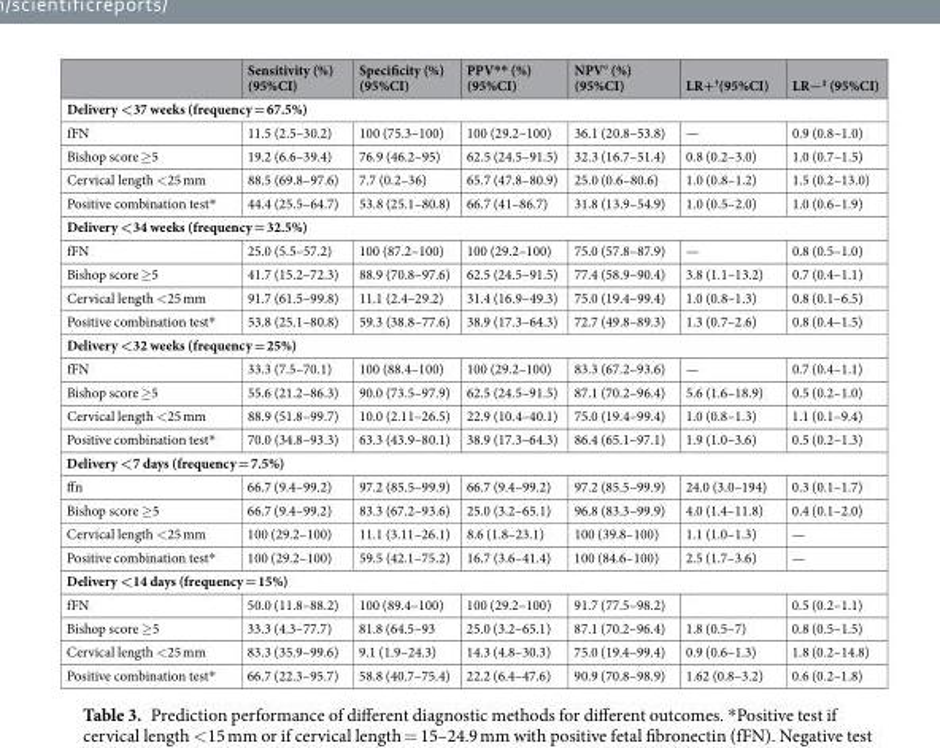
<table><thead><tr><td></td><td>Sensitivity (%) (95%CI)</td><td>Specificity (%) (95%CI)</td><td>PPV** (%) (95%CI)</td><td>NPV° (%) (95%CI)</td><td>LR+<sup>†</sup>(95%CI)</td><td>LR−<sup>‡</sup> (95%CI)</td></tr></thead><tbody><tr><td colspan="7">Delivery &lt;37 weeks (frequency = 67.5%)</td></tr><tr><td>fFN</td><td>11.5 (2.5–30.2)</td><td>100 (75.3–100)</td><td>100 (29.2–100)</td><td>36.1 (20.8–53.8)</td><td>—</td><td>0.9 (0.8–1.0)</td></tr><tr><td>Bishop score ≥5</td><td>19.2 (6.6–39.4)</td><td>76.9 (46.2–95)</td><td>62.5 (24.5–91.5)</td><td>32.3 (16.7–51.4)</td><td>0.8 (0.2–3.0)</td><td>1.0 (0.7–1.5)</td></tr><tr><td>Cervical length &lt;25 mm</td><td>88.5 (69.8–97.6)</td><td>7.7 (0.2–36)</td><td>65.7 (47.8–80.9)</td><td>25.0 (0.6–80.6)</td><td>1.0 (0.8–1.2)</td><td>1.5 (0.2–13.0)</td></tr><tr><td>Positive combination test*</td><td>44.4 (25.5–64.7)</td><td>53.8 (25.1–80.8)</td><td>66.7 (41–86.7)</td><td>31.8 (13.9–54.9)</td><td>1.0 (0.5–2.0)</td><td>1.0 (0.6–1.9)</td></tr><tr><td colspan="7">Delivery &lt;34 weeks (frequency = 32.5%)</td></tr><tr><td>fFN</td><td>25.0 (5.5–57.2)</td><td>100 (87.2–100)</td><td>100 (29.2–100)</td><td>75.0 (57.8–87.9)</td><td>—</td><td>0.8 (0.5–1.0)</td></tr><tr><td>Bishop score ≥5</td><td>41.7 (15.2–72.3)</td><td>88.9 (70.8–97.6)</td><td>62.5 (24.5–91.5)</td><td>77.4 (58.9–90.4)</td><td>3.8 (1.1–13.2)</td><td>0.7 (0.4–1.1)</td></tr><tr><td>Cervical length &lt;25 mm</td><td>91.7 (61.5–99.8)</td><td>11.1 (2.4–29.2)</td><td>31.4 (16.9–49.3)</td><td>75.0 (19.4–99.4)</td><td>1.0 (0.8–1.3)</td><td>0.8 (0.1–6.5)</td></tr><tr><td>Positive combination test*</td><td>53.8 (25.1–80.8)</td><td>59.3 (38.8–77.6)</td><td>38.9 (17.3–64.3)</td><td>72.7 (49.8–89.3)</td><td>1.3 (0.7–2.6)</td><td>0.8 (0.4–1.5)</td></tr><tr><td colspan="7">Delivery &lt;32 weeks (frequency = 25%)</td></tr><tr><td>fFN</td><td>33.3 (7.5–70.1)</td><td>100 (88.4–100)</td><td>100 (29.2–100)</td><td>83.3 (67.2–93.6)</td><td>—</td><td>0.7 (0.4–1.1)</td></tr><tr><td>Bishop score ≥5</td><td>55.6 (21.2–86.3)</td><td>90.0 (73.5–97.9)</td><td>62.5 (24.5–91.5)</td><td>87.1 (70.2–96.4)</td><td>5.6 (1.6–18.9)</td><td>0.5 (0.2–1.0)</td></tr><tr><td>Cervical length &lt;25 mm</td><td>88.9 (51.8–99.7)</td><td>10.0 (2.11–26.5)</td><td>22.9 (10.4–40.1)</td><td>75.0 (19.4–99.4)</td><td>1.0 (0.8–1.3)</td><td>1.1 (0.1–9.4)</td></tr><tr><td>Positive combination test*</td><td>70.0 (34.8–93.3)</td><td>63.3 (43.9–80.1)</td><td>38.9 (17.3–64.3)</td><td>86.4 (65.1–97.1)</td><td>1.9 (1.0–3.6)</td><td>0.5 (0.2–1.3)</td></tr><tr><td colspan="7">Delivery &lt;7 days (frequency = 7.5%)</td></tr><tr><td>ffn</td><td>66.7 (9.4–99.2)</td><td>97.2 (85.5–99.9)</td><td>66.7 (9.4–99.2)</td><td>97.2 (85.5–99.9)</td><td>24.0 (3.0–194)</td><td>0.3 (0.1–1.7)</td></tr><tr><td>Bishop score ≥5</td><td>66.7 (9.4–99.2)</td><td>83.3 (67.2–93.6)</td><td>25.0 (3.2–65.1)</td><td>96.8 (83.3–99.9)</td><td>4.0 (1.4–11.8)</td><td>0.4 (0.1–2.0)</td></tr><tr><td>Cervical length &lt;25 mm</td><td>100 (29.2–100)</td><td>11.1 (3.11–26.1)</td><td>8.6 (1.8–23.1)</td><td>100 (39.8–100)</td><td>1.1 (1.0–1.3)</td><td>—</td></tr><tr><td>Positive combination test*</td><td>100 (29.2–100)</td><td>59.5 (42.1–75.2)</td><td>16.7 (3.6–41.4)</td><td>100 (84.6–100)</td><td>2.5 (1.7–3.6)</td><td>—</td></tr><tr><td colspan="7">Delivery &lt;14 days (frequency = 15%)</td></tr><tr><td>fFN</td><td>50.0 (11.8–88.2)</td><td>100 (89.4–100)</td><td>100 (29.2–100)</td><td>91.7 (77.5–98.2)</td><td></td><td>0.5 (0.2–1.1)</td></tr><tr><td>Bishop score ≥5</td><td>33.3 (4.3–77.7)</td><td>81.8 (64.5–93</td><td>25.0 (3.2–65.1)</td><td>87.1 (70.2–96.4)</td><td>1.8 (0.5–7)</td><td>0.8 (0.5–1.5)</td></tr><tr><td>Cervical length &lt;25 mm</td><td>83.3 (35.9–99.6)</td><td>9.1 (1.9–24.3)</td><td>14.3 (4.8–30.3)</td><td>75.0 (19.4–99.4)</td><td>0.9 (0.6–1.3)</td><td>1.8 (0.2–14.8)</td></tr><tr><td>Positive combination test*</td><td>66.7 (22.3–95.7)</td><td>58.8 (40.7–75.4)</td><td>22.2 (6.4–47.6)</td><td>90.9 (70.8–98.9)</td><td>1.62 (0.8–3.2)</td><td>0.6 (0.2–1.8)</td></tr></tbody></table>